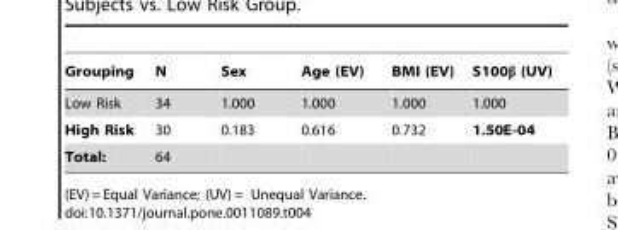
<table><thead><tr><td>Grouping</td><td>N</td><td>Sex</td><td>Age (EV)</td><td>BMI (EV)</td><td>S100β (UV)</td></tr></thead><tbody><tr><td>Low Risk</td><td>34</td><td>1.000</td><td>1.000</td><td>1.000</td><td>1.000</td></tr><tr><td>High Risk</td><td>30</td><td>0.183</td><td>0.616</td><td>0.732</td><td>1.50E-04</td></tr><tr><td>Total:</td><td>64</td><td></td><td></td><td></td><td></td></tr></tbody></table>